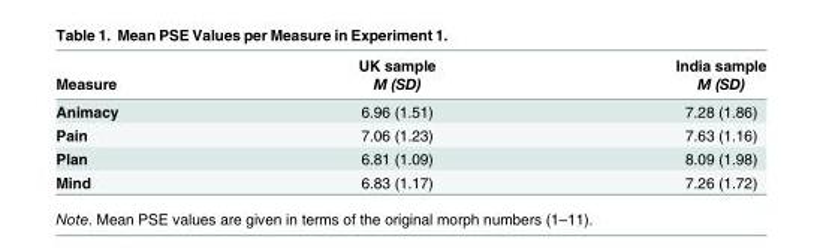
<table><thead><tr><td rowspan="2">Measure</td><td rowspan="2">UK sample M (SD)</td><td rowspan="2">India sample M (SD)</td></tr><tr></tr></thead><tbody><tr><td>Animacy</td><td>6.96 (1.51)</td><td>7.28 (1.86)</td></tr><tr><td>Pain</td><td>7.06 (1.23)</td><td>7.63 (1.16)</td></tr><tr><td>Plan</td><td>6.81 (1.09)</td><td>8.09 (1.98)</td></tr><tr><td>Mind</td><td>6.83 (1.17)</td><td>7.26 (1.72)</td></tr></tbody></table>